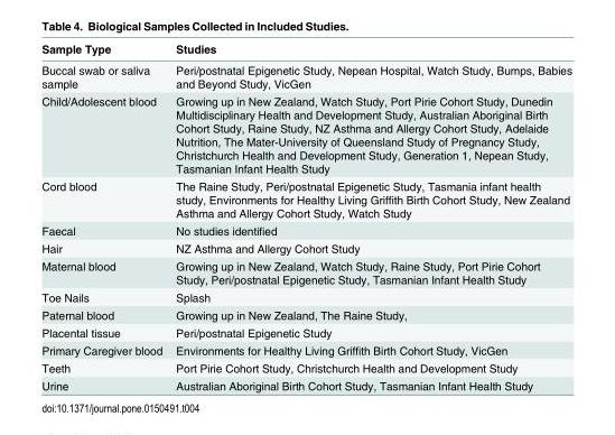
<table><thead><tr><td>Sample Type</td><td>Studies</td></tr></thead><tbody><tr><td>Buccal swab or saliva sample</td><td>Peri/postnatal Epigenetic Study, Nepean Hospital, Watch Study, Bumps, Babies and Beyond Study, VicGen</td></tr><tr><td>Child/Adolescent blood</td><td>Growing up in New Zealand, Watch Study, Port Pirie Cohort Study, Dunedin Multidisciplinary Health and Development Study, Australian Aboriginal Birth Cohort Study, Raine Study, NZ Asthma and Allergy Cohort Study, Adelaide Nutrition, The Mater-University of Queensland Study of Pregnancy Study, Christchurch Health and Development Study, Generation 1, Nepean Study, Tasmanian Infant Health Study</td></tr><tr><td>Cord blood</td><td>The Raine Study, Peri/postnatal Epigenetic Study, Tasmania infant health study, Environments for Healthy Living Griffith Birth Cohort Study, New Zealand Asthma and Allergy Cohort Study, Watch Study</td></tr><tr><td>Faecal</td><td>No studies identified</td></tr><tr><td>Hair</td><td>NZ Asthma and Allergy Cohort Study</td></tr><tr><td>Maternal blood</td><td>Growing up in New Zealand, Watch Study, Raine Study, Port Pirie Cohort Study, Peri/postnatal Epigenetic Study, Tasmanian Infant Health Study</td></tr><tr><td>Toe Nails</td><td>Splash</td></tr><tr><td>Paternal blood</td><td>Growing up in New Zealand, The Raine Study,</td></tr><tr><td>Placental tissue</td><td>Peri/postnatal Epigenetic Study</td></tr><tr><td>Primary Caregiver blood</td><td>Environments for Healthy Living Griffith Birth Cohort Study, VicGen</td></tr><tr><td>Teeth</td><td>Port Pirie Cohort Study, Christchurch Health and Development Study</td></tr><tr><td>Urine</td><td>Australian Aboriginal Birth Cohort Study, Tasmanian Infant Health Study</td></tr></tbody></table>